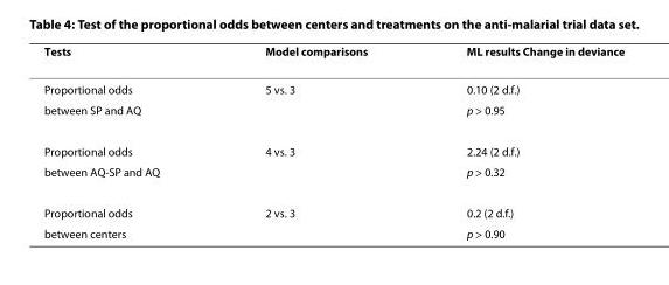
<table><thead><tr><td>Tests</td><td>Model comparisons</td><td>ML results Change in deviance</td></tr></thead><tbody><tr><td>Proportional odds</td><td>5 vs. 3</td><td>0.10 (2 d.f.)</td></tr><tr><td>between SP and AQ</td><td></td><td>p &gt; 0.95</td></tr><tr><td>Proportional odds</td><td>4 vs. 3</td><td>2.24 (2 d.f.)</td></tr><tr><td>between AQ-SP and AQ</td><td></td><td>p &gt; 0.32</td></tr><tr><td>Proportional odds</td><td>2 vs. 3</td><td>0.2 (2 d.f.)</td></tr><tr><td>between centers</td><td></td><td>p &gt; 0.90</td></tr></tbody></table>